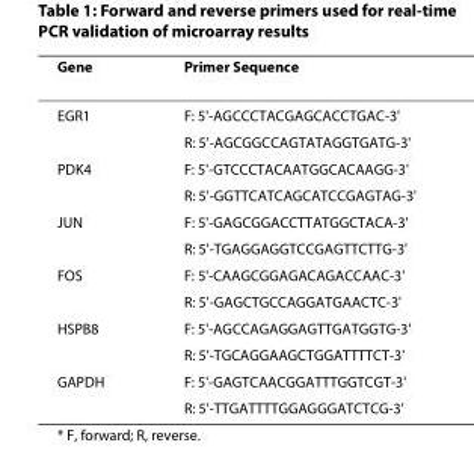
<table><thead><tr><td>Gene</td><td>Primer Sequence</td></tr></thead><tbody><tr><td rowspan="2">EGR1</td><td>F: 5&#x27;-AGCCCTACGAGCACCTGAC-3&#x27;</td></tr><tr><td>R: 5&#x27;-AGCGGCCAGTATAGGTGATG-3&#x27;</td></tr><tr><td rowspan="2">PDK4</td><td>F: 5&#x27;-GTCCCTACAATGGCACAAGG-3&#x27;</td></tr><tr><td>R: 5&#x27;-GGTTCATCAGCATCCGAGTAG-3&#x27;</td></tr><tr><td rowspan="2">JUN</td><td>F: 5&#x27;-GAGCGGACCTTATGGCTACA-3&#x27;</td></tr><tr><td>R: 5&#x27;-TGAGGAGGTCCGAGTTCTTG-3&#x27;</td></tr><tr><td rowspan="2">FOS</td><td>F: 5&#x27;-CAAGCGGAGACAGACCAAC-3&#x27;</td></tr><tr><td>R: 5&#x27;-GAGCTGCCAGGATGAACTC-3&#x27;</td></tr><tr><td rowspan="2">HSPB8</td><td>F: 5&#x27;-AGCCAGAGGAGTTGATGGTG-3&#x27;</td></tr><tr><td>R: 5&#x27;-TGCAGGAAGCTGGATTTTCT-3&#x27;</td></tr><tr><td rowspan="2">GAPDH</td><td>F: 5&#x27;-GAGTCAACGGATTTGGTCGT-3&#x27;</td></tr><tr><td>R: 5&#x27;-TTGATTTTGGAGGGATCTCG-3&#x27;</td></tr></tbody></table>